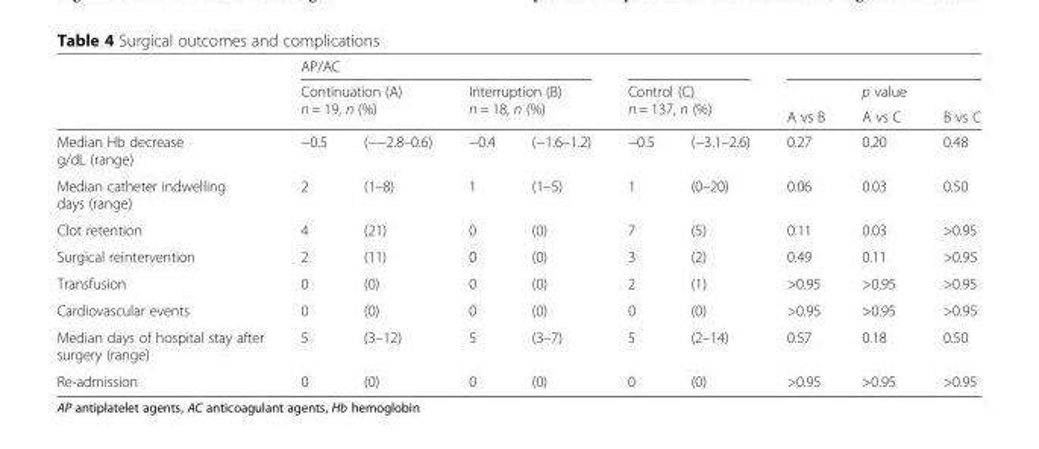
<table><thead><tr><td rowspan="4">Median Hb decrease g/dL (range)</td><td colspan="4">AP/AC</td><td></td><td></td><td rowspan="4">A vs B 0.27</td><td rowspan="4">p value A vs C 0.20</td><td rowspan="4">B vs C 0.48</td></tr><tr><td rowspan="2" colspan="2">Continuation (A) n = 19, n (%)</td><td rowspan="2" colspan="2">Interruption (B) n = 18, n (%)</td><td rowspan="2" colspan="2">Control (C) n = 137, n (%)</td></tr><tr></tr><tr><td>−0.5</td><td>(−−2.8–0.6)</td><td>−0.4</td><td>(−1.6–1.2)</td><td>−0.5</td><td>(−3.1–2.6)</td></tr></thead><tbody><tr><td>Median catheter indwelling days (range)</td><td>2</td><td>(1–8)</td><td>1</td><td>(1–5)</td><td>1</td><td>(0–20)</td><td>0.06</td><td>0.03</td><td>0.50</td></tr><tr><td>Clot retention</td><td>4</td><td>(21)</td><td>0</td><td>(0)</td><td>7</td><td>(5)</td><td>0.11</td><td>0.03</td><td>&gt;0.95</td></tr><tr><td>Surgical reintervention</td><td>2</td><td>(11)</td><td>0</td><td>(0)</td><td>3</td><td>(2)</td><td>0.49</td><td>0.11</td><td>&gt;0.95</td></tr><tr><td>Transfusion</td><td>0</td><td>(0)</td><td>0</td><td>(0)</td><td>2</td><td>(1)</td><td>&gt;0.95</td><td>&gt;0.95</td><td>&gt;0.95</td></tr><tr><td>Cardiovascular events</td><td>0</td><td>(0)</td><td>0</td><td>(0)</td><td>0</td><td>(0)</td><td>&gt;0.95</td><td>&gt;0.95</td><td>&gt;0.95</td></tr><tr><td>Median days of hospital stay after surgery (range)</td><td>5</td><td>(3–12)</td><td>5</td><td>(3–7)</td><td>5</td><td>(2–14)</td><td>0.57</td><td>0.18</td><td>0.50</td></tr><tr><td>Re-admission</td><td>0</td><td>(0)</td><td>0</td><td>(0)</td><td>0</td><td>(0)</td><td>&gt;0.95</td><td>&gt;0.95</td><td>&gt;0.95</td></tr></tbody></table>